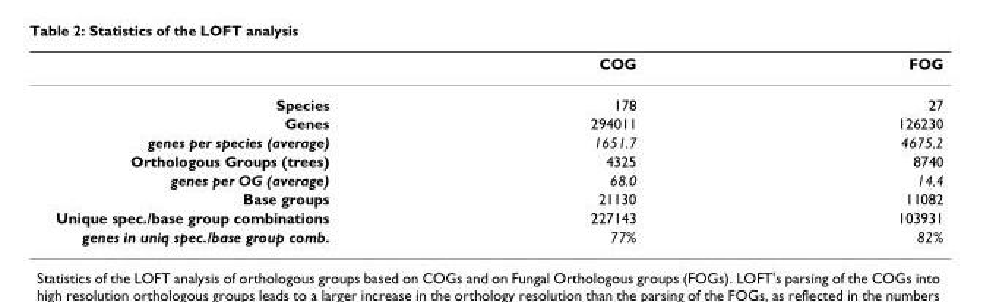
<table><thead><tr><td></td><td>COG</td><td>FOG</td></tr></thead><tbody><tr><td>Species</td><td>178</td><td>27</td></tr><tr><td>Genes</td><td>294011</td><td>126230</td></tr><tr><td>genes per species (average)</td><td>1651.7</td><td>4675.2</td></tr><tr><td>Orthologous Groups (trees)</td><td>4325</td><td>8740</td></tr><tr><td>genes per OG (average)</td><td>68.0</td><td>14.4</td></tr><tr><td>Base groups</td><td>21130</td><td>11082</td></tr><tr><td>Unique spec./base group combinations</td><td>227143</td><td>103931</td></tr><tr><td>genes in uniq spec./base group comb.</td><td>77%</td><td>82%</td></tr></tbody></table>